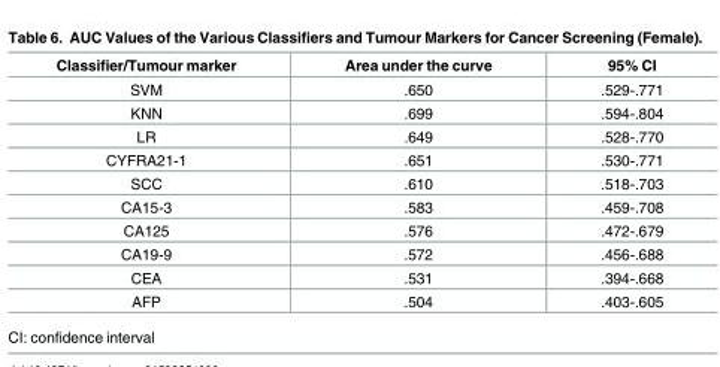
<table><thead><tr><td>Classifier/Tumour marker</td><td>Area under the curve</td><td>95% CI</td></tr></thead><tbody><tr><td>SVM</td><td>.650</td><td>.529-.771</td></tr><tr><td>KNN</td><td>.699</td><td>.594-.804</td></tr><tr><td>LR</td><td>.649</td><td>.528-.770</td></tr><tr><td>CYFRA21-1</td><td>.651</td><td>.530-.771</td></tr><tr><td>SCC</td><td>.610</td><td>.518-.703</td></tr><tr><td>CA15-3</td><td>.583</td><td>.459-.708</td></tr><tr><td>CA125</td><td>.576</td><td>.472-.679</td></tr><tr><td>CA19-9</td><td>.572</td><td>.456-.688</td></tr><tr><td>CEA</td><td>.531</td><td>.394-.668</td></tr><tr><td>AFP</td><td>.504</td><td>.403-.605</td></tr></tbody></table>